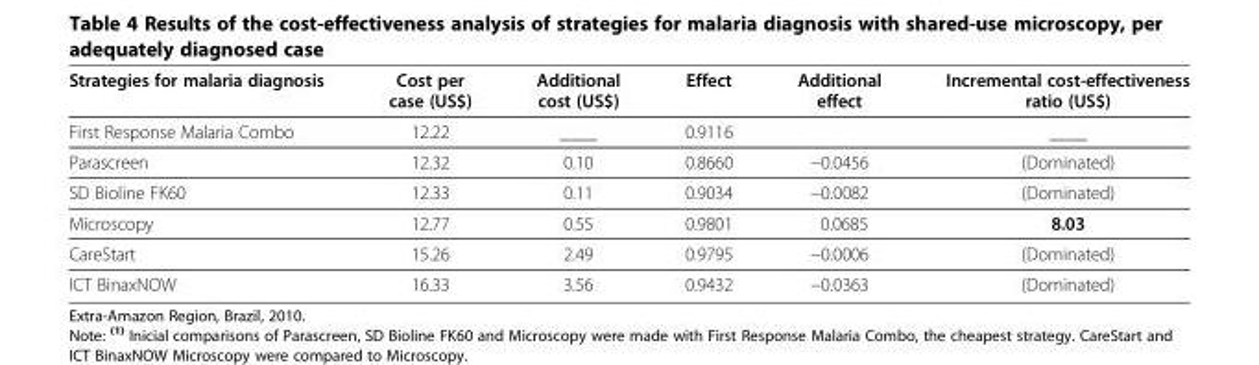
<table><thead><tr><td>Strategies for malaria diagnosis</td><td>Cost per case (US$)</td><td>Additional cost (US$)</td><td>Effect</td><td>Additional effect</td><td>Incremental cost-effectiveness ratio (US$)</td></tr></thead><tbody><tr><td>First Response Malaria Combo</td><td>12.22</td><td>____</td><td>0.9116</td><td></td><td>____</td></tr><tr><td>Parascreen</td><td>12.32</td><td>0.10</td><td>0.8660</td><td>−0.0456</td><td>(Dominated)</td></tr><tr><td>SD Bioline FK60</td><td>12.33</td><td>0.11</td><td>0.9034</td><td>−0.0082</td><td>(Dominated)</td></tr><tr><td>Microscopy</td><td>12.77</td><td>0.55</td><td>0.9801</td><td>0.0685</td><td>8.03</td></tr><tr><td>CareStart</td><td>15.26</td><td>2.49</td><td>0.9795</td><td>−0.0006</td><td>(Dominated)</td></tr><tr><td>ICT BinaxNOW</td><td>16.33</td><td>3.56</td><td>0.9432</td><td>−0.0363</td><td>(Dominated)</td></tr></tbody></table>